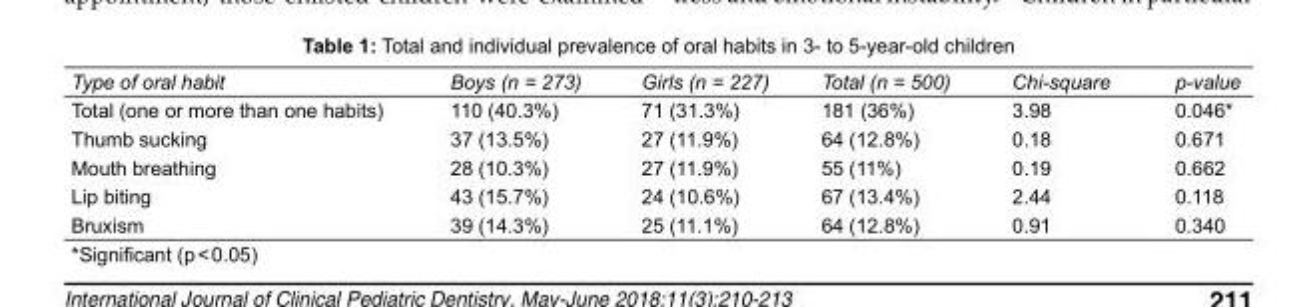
<table><tbody><tr><td>Type of oral habit</td><td>Boys (n = 273)</td><td>Girls (n = 227)</td><td>Total (n = 500)</td><td>Chi-square</td><td>p-value</td></tr><tr><td>Total (one or more than one habits)</td><td>110 (40.3%)</td><td>71 (31.3%)</td><td>181 (36%)</td><td>3.98</td><td>0.046*</td></tr><tr><td>Thumb sucking</td><td>37 (13.5%)</td><td>27 (11.9%)</td><td>64 (12.8%)</td><td>0.18</td><td>0.671</td></tr><tr><td>Mouth breathing</td><td>28 (10.3%)</td><td>27 (11.9%)</td><td>55 (11%)</td><td>0.19</td><td>0.662</td></tr><tr><td>Lip biting</td><td>43 (15.7%)</td><td>24 (10.6%)</td><td>67 (13.4%)</td><td>2.44</td><td>0.118</td></tr><tr><td>Bruxism</td><td>39 (14.3%)</td><td>25 (11.1%)</td><td>64 (12.8%)</td><td>0.91</td><td>0.340</td></tr></tbody></table>